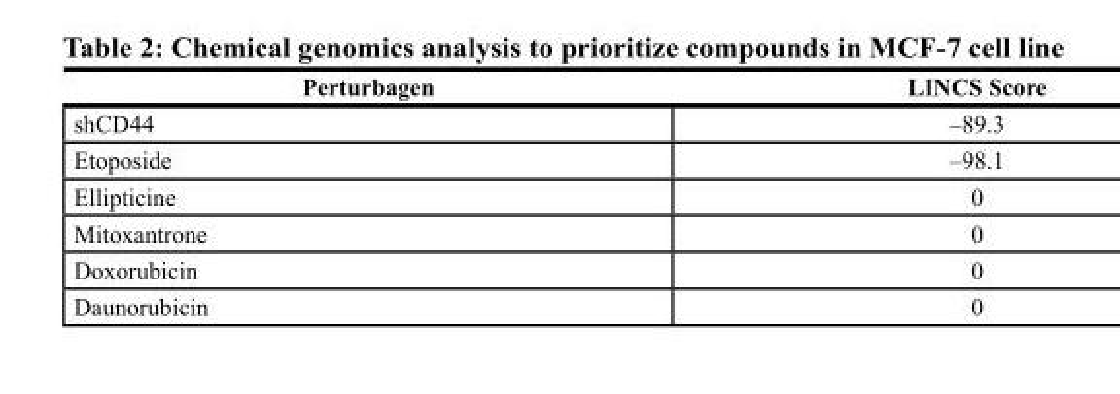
<table><thead><tr><td>Perturbagen</td><td>LINCS Score</td></tr></thead><tbody><tr><td>shCD44</td><td>–89.3</td></tr><tr><td>Etoposide</td><td>–98.1</td></tr><tr><td>Ellipticine</td><td>0</td></tr><tr><td>Mitoxantrone</td><td>0</td></tr><tr><td>Doxorubicin</td><td>0</td></tr><tr><td>Daunorubicin</td><td>0</td></tr></tbody></table>